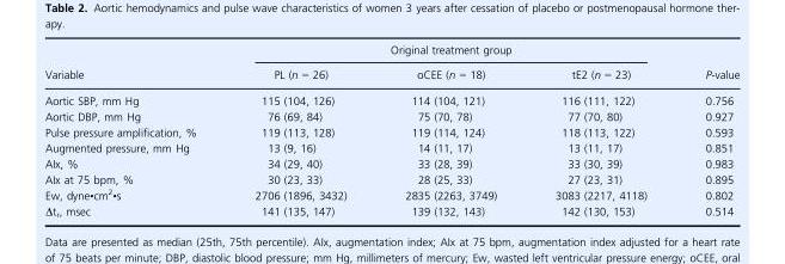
<table><thead><tr><td rowspan="2">Variable</td><td colspan="3">Original treatment group</td><td rowspan="2">P-value</td></tr><tr><td>PL (n = 26)</td><td>oCEE (n = 18)</td><td>tE2 (n = 23)</td></tr></thead><tbody><tr><td>Aortic SBP, mm Hg</td><td>115 (104, 126)</td><td>114 (104, 121)</td><td>116 (111, 122)</td><td>0.756</td></tr><tr><td>Aortic DBP, mm Hg</td><td>76 (69, 84)</td><td>75 (70, 78)</td><td>77 (70, 80)</td><td>0.927</td></tr><tr><td>Pulse pressure amplification, %</td><td>119 (113, 128)</td><td>119 (114, 124)</td><td>118 (113, 122)</td><td>0.593</td></tr><tr><td>Augmented pressure, mm Hg</td><td>13 (9, 16)</td><td>14 (11, 17)</td><td>13 (11, 17)</td><td>0.851</td></tr><tr><td>AIx, %</td><td>34 (29, 40)</td><td>33 (28, 39)</td><td>33 (30, 39)</td><td>0.983</td></tr><tr><td>AIx at 75 bpm, %</td><td>30 (23, 33)</td><td>28 (25, 33)</td><td>27 (23, 31)</td><td>0.895</td></tr><tr><td>Ew, dyne•cm<sup>2</sup>•s</td><td>2706 (1896, 3432)</td><td>2835 (2263, 3749)</td><td>3083 (2217, 4118)</td><td>0.802</td></tr><tr><td>Δt<sub>r</sub>, msec</td><td>141 (135, 147)</td><td>139 (132, 143)</td><td>142 (130, 153)</td><td>0.514</td></tr></tbody></table>